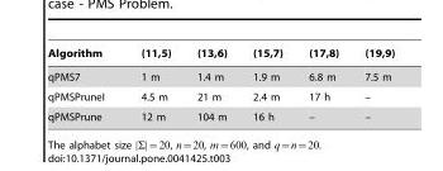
<table><thead><tr><td>Algorithm</td><td>(11,5)</td><td>(13,6)</td><td>(15,7)</td><td>(17,8)</td><td>(19,9)</td></tr></thead><tbody><tr><td>qPMS7</td><td>1 m</td><td>1.4 m</td><td>1.9 m</td><td>6.8 m</td><td>7.5 m</td></tr><tr><td>qPMSPruneI</td><td>4.5 m</td><td>21 m</td><td>2.4 m</td><td>17 h</td><td>–</td></tr><tr><td>qPMSPrune</td><td>12 m</td><td>104 m</td><td>16 h</td><td>–</td><td>–</td></tr></tbody></table>